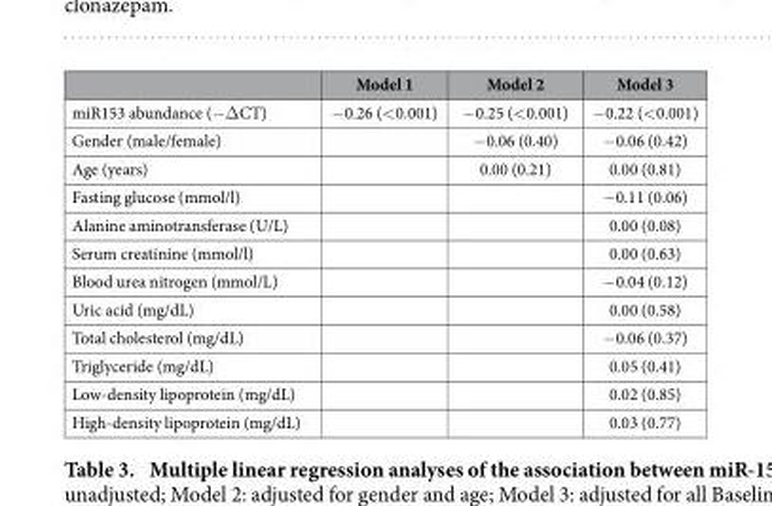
<table><thead><tr><td></td><td>Model 1</td><td>Model 2</td><td>Model 3</td></tr></thead><tbody><tr><td>miR153 abundance (− Δ CT)</td><td>− 0.26 (&lt; 0.001)</td><td>− 0.25 (&lt; 0.001)</td><td>− 0.22 (&lt; 0.001)</td></tr><tr><td>Gender (male/female)</td><td></td><td>− 0.06 (0.40)</td><td>− 0.06 (0.42)</td></tr><tr><td>Age (years)</td><td></td><td>0.00 (0.21)</td><td>0.00 (0.81)</td></tr><tr><td>Fasting glucose (mmol/l)</td><td></td><td></td><td>− 0.11 (0.06)</td></tr><tr><td>Alanine aminotransferase (U/L)</td><td></td><td></td><td>0.00 (0.08)</td></tr><tr><td>Serum creatinine (mmol/l)</td><td></td><td></td><td>0.00 (0.63)</td></tr><tr><td>Blood urea nitrogen (mmol/L)</td><td></td><td></td><td>− 0.04 (0.12)</td></tr><tr><td>Uric acid (mg/dL)</td><td></td><td></td><td>0.00 (0.58)</td></tr><tr><td>Total cholesterol (mg/dL)</td><td></td><td></td><td>− 0.06 (0.37)</td></tr><tr><td>Triglyceride (mg/dL)</td><td></td><td></td><td>0.05 (0.41)</td></tr><tr><td>Low-density lipoprotein (mg/dL)</td><td></td><td></td><td>0.02 (0.85)</td></tr><tr><td>High-density lipoprotein (mg/dL)</td><td></td><td></td><td>0.03 (0.77)</td></tr></tbody></table>